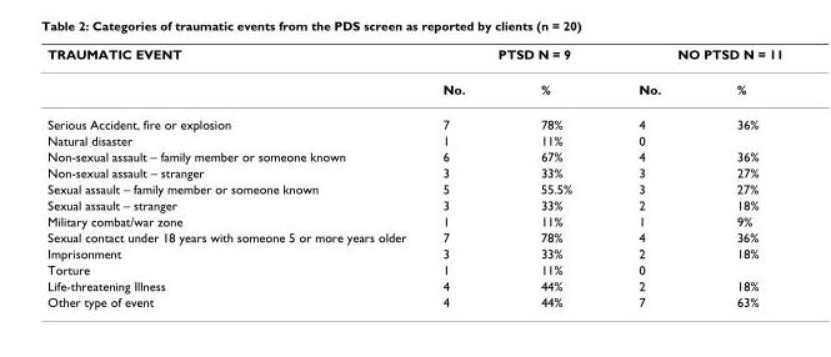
<table><thead><tr><td rowspan="2">TRAUMATIC EVENT</td><td colspan="2">PTSD N = 9</td><td colspan="2">NO PTSD N = 11</td></tr><tr><td>No.</td><td>%</td><td>No.</td><td>%</td></tr></thead><tbody><tr><td>Serious Accident, fire or explosion</td><td>7</td><td>78%</td><td>4</td><td>36%</td></tr><tr><td>Natural disaster</td><td>1</td><td>11%</td><td>0</td><td></td></tr><tr><td>Non-sexual assault – family member or someone known</td><td>6</td><td>67%</td><td>4</td><td>36%</td></tr><tr><td>Non-sexual assault – stranger</td><td>3</td><td>33%</td><td>3</td><td>27%</td></tr><tr><td>Sexual assault – family member or someone known</td><td>5</td><td>55.5%</td><td>3</td><td>27%</td></tr><tr><td>Sexual assault – stranger</td><td>3</td><td>33%</td><td>2</td><td>18%</td></tr><tr><td>Military combat/war zone</td><td>1</td><td>11%</td><td>1</td><td>9%</td></tr><tr><td>Sexual contact under 18 years with someone 5 or more years older</td><td>7</td><td>78%</td><td>4</td><td>36%</td></tr><tr><td>Imprisonment</td><td>3</td><td>33%</td><td>2</td><td>18%</td></tr><tr><td>Torture</td><td>1</td><td>11%</td><td>0</td><td></td></tr><tr><td>Life-threatening Illness</td><td>4</td><td>44%</td><td>2</td><td>18%</td></tr><tr><td>Other type of event</td><td>4</td><td>44%</td><td>7</td><td>63%</td></tr></tbody></table>